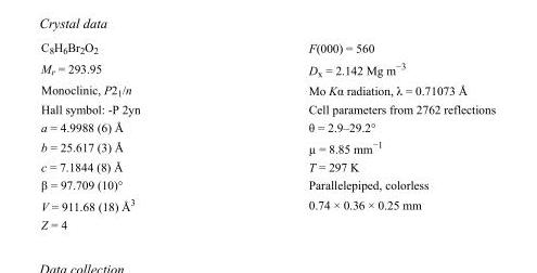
<table><tbody><tr><td>C<sub>8</sub>H<sub>6</sub>Br<sub>2</sub>O<sub>2</sub></td><td>F(000) = 560</td></tr><tr><td>M<sub>r</sub> = 293.95</td><td>D<sub>x</sub> = 2.142 Mg m<sup>−3</sup></td></tr><tr><td>Monoclinic, P2<sub>1</sub>/n</td><td>Mo Kα radiation, λ = 0.71073 Å</td></tr><tr><td>Hall symbol: -P 2yn</td><td>Cell parameters from 2762 reflections</td></tr><tr><td>a = 4.9988 (6) Å</td><td>θ = 2.9–29.2°</td></tr><tr><td>b = 25.617 (3) Å</td><td>µ = 8.85 mm<sup>−1</sup></td></tr><tr><td>c = 7.1844 (8) Å</td><td>T = 297 K</td></tr><tr><td>β = 97.709 (10)°</td><td>Parallelepiped, colorless</td></tr><tr><td>V = 911.68 (18) Å<sup>3</sup></td><td>0.74 × 0.36 × 0.25 mm</td></tr><tr><td>Z = 4</td><td></td></tr></tbody></table>